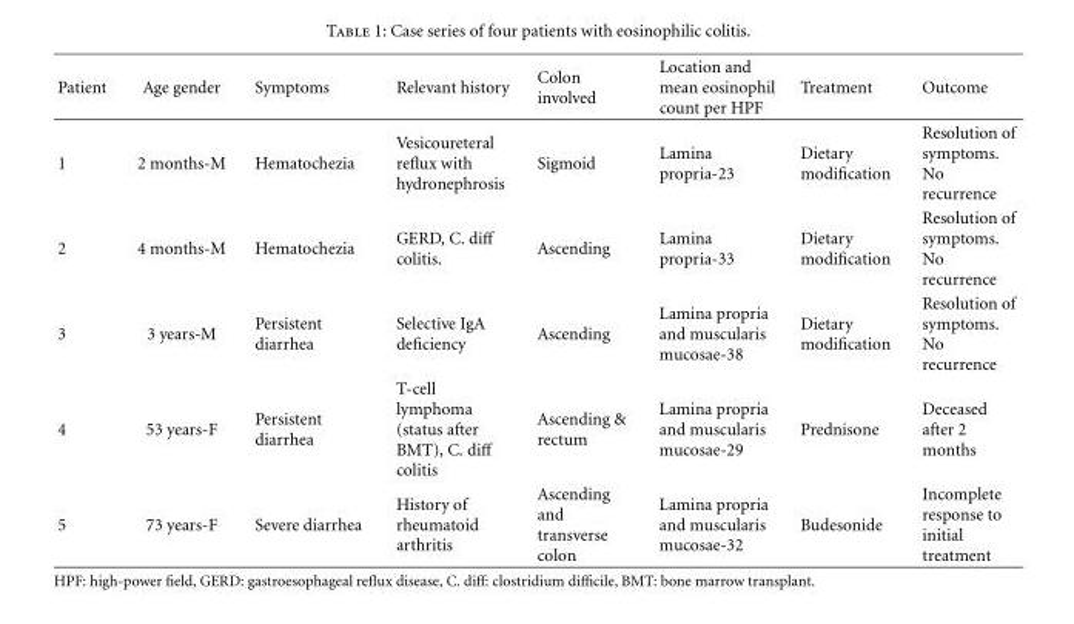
<table><thead><tr><td>Patient</td><td>Age gender</td><td>Symptoms</td><td>Relevant history</td><td>Colon involved</td><td>Location and mean eosinophil count per HPF</td><td>Treatment</td><td>Outcome</td></tr></thead><tbody><tr><td>1</td><td>2 months-M</td><td>Hematochezia</td><td>Vesicoureteral reflux with hydronephrosis</td><td>Sigmoid</td><td>Lamina propria-23</td><td>Dietary modification</td><td>Resolution of symptoms. No recurrence</td></tr><tr><td>2</td><td>4 months-M</td><td>Hematochezia</td><td>GERD, C. diff colitis.</td><td>Ascending</td><td>Lamina propria-33</td><td>Dietary modification</td><td>Resolution of symptoms. No recurrence</td></tr><tr><td>3</td><td>3 years-M</td><td>Persistent diarrhea</td><td>Selective IgA deficiency</td><td>Ascending</td><td>Lamina propria and muscularis mucosae-38</td><td>Dietary modification</td><td>Resolution of symptoms. No recurrence</td></tr><tr><td>4</td><td>53 years-F</td><td>Persistent diarrhea</td><td>T-cell lymphoma (status after BMT), C. diff colitis</td><td>Ascending &amp; rectum</td><td>Lamina propria and muscularis mucosae-29</td><td>Prednisone</td><td>Deceased after 2 months</td></tr><tr><td>5</td><td>73 years-F</td><td>Severe diarrhea</td><td>History of rheumatoid arthritis</td><td>Ascending and transverse colon</td><td>Lamina propria and muscularis mucosae-32</td><td>Budesonide</td><td>Incomplete response to initial treatment</td></tr></tbody></table>